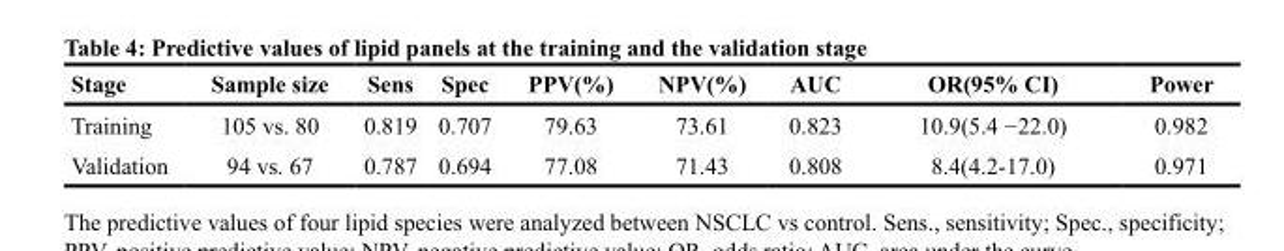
<table><thead><tr><td>Stage</td><td>Sample size</td><td>Sens</td><td>Spec</td><td>PPV(%)</td><td>NPV(%)</td><td>AUC</td><td>OR(95% CI)</td><td>Power</td></tr></thead><tbody><tr><td>Training</td><td>105 vs. 80</td><td>0.819</td><td>0.707</td><td>79.63</td><td>73.61</td><td>0.823</td><td>10.9(5.4 −22.0)</td><td>0.982</td></tr><tr><td>Validation</td><td>94 vs. 67</td><td>0.787</td><td>0.694</td><td>77.08</td><td>71.43</td><td>0.808</td><td>8.4(4.2-17.0)</td><td>0.971</td></tr></tbody></table>